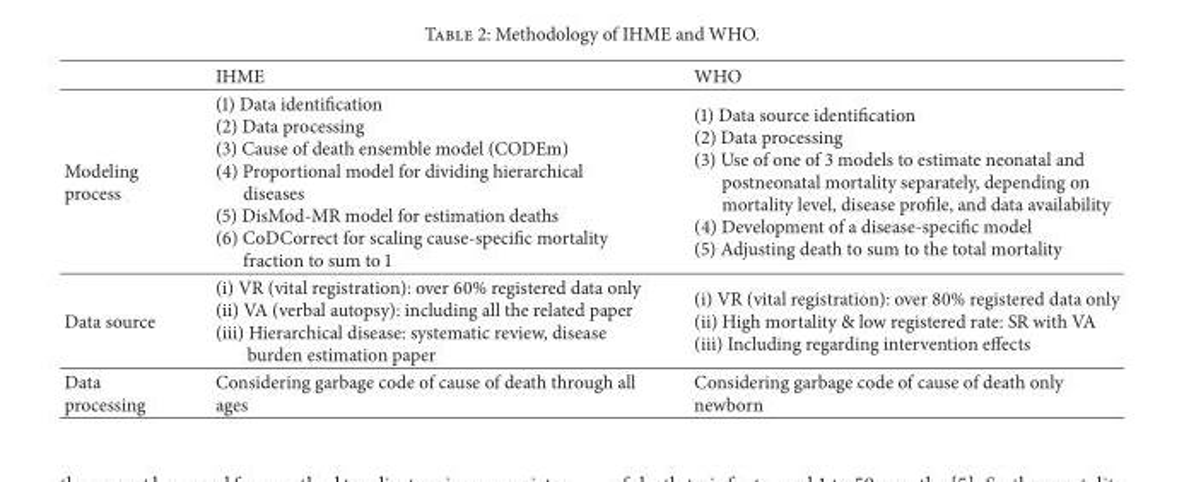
<table><thead><tr><td></td><td>IHME</td><td>WHO</td></tr></thead><tbody><tr><td>Modeling process</td><td>(1) Data identification (2) Data processing (3) Cause of death ensemble model (CODEm) (4) Proportional model for dividing hierarchical diseases (5) DisMod-MR model for estimation deaths (6) CoDCorrect for scaling cause-specific mortality fraction to sum to 1</td><td>(1) Data source identification (2) Data processing (3) Use of one of 3 models to estimate neonatal and postneonatal mortality separately, depending on mortality level, disease profile, and data availability (4) Development of a disease-specific model (5) Adjusting death to sum to the total mortality</td></tr><tr><td>Data source</td><td>(i) VR (vital registration): over 60% registered data only (ii) VA (verbal autopsy): including all the related paper (iii) Hierarchical disease: systematic review, disease burden estimation paper</td><td>(i) VR (vital registration): over 80% registered data only (ii) High mortality &amp; low registered rate: SR with VA (iii) Including regarding intervention effects</td></tr><tr><td>Data processing</td><td>Considering garbage code of cause of death through all ages</td><td>Considering garbage code of cause of death only newborn</td></tr></tbody></table>